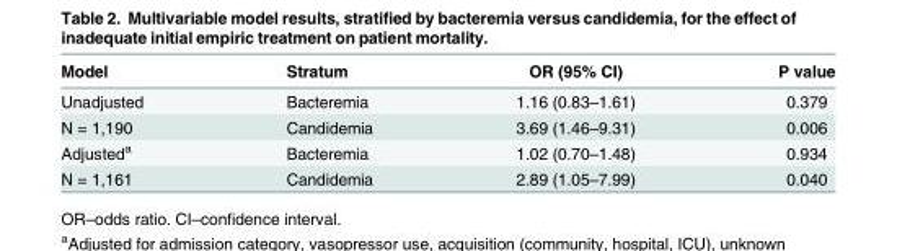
<table><thead><tr><td>Model</td><td>Stratum</td><td>OR (95% CI)</td><td>P value</td></tr></thead><tbody><tr><td>Unadjusted</td><td>Bacteremia</td><td>1.16 (0.83–1.61)</td><td>0.379</td></tr><tr><td>N = 1,190</td><td>Candidemia</td><td>3.69 (1.46–9.31)</td><td>0.006</td></tr><tr><td>Adjusted<sup>a</sup></td><td>Bacteremia</td><td>1.02 (0.70–1.48)</td><td>0.934</td></tr><tr><td>N = 1,161</td><td>Candidemia</td><td>2.89 (1.05–7.99)</td><td>0.040</td></tr></tbody></table>